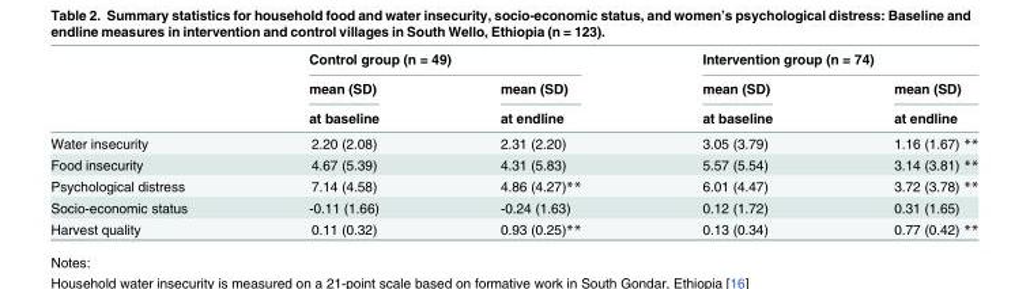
<table><thead><tr><td rowspan="3"></td><td colspan="2">Control group (n = 49)</td><td colspan="2">Intervention group (n = 74)</td></tr><tr><td rowspan="2">mean (SD) at baseline</td><td rowspan="2">mean (SD) at endline</td><td rowspan="2">mean (SD) at baseline</td><td rowspan="2">mean (SD) at endline</td></tr><tr></tr></thead><tbody><tr><td>Water insecurity</td><td>2.20 (2.08)</td><td>2.31 (2.20)</td><td>3.05 (3.79)</td><td>1.16 (1.67) **</td></tr><tr><td>Food insecurity</td><td>4.67 (5.39)</td><td>4.31 (5.83)</td><td>5.57 (5.54)</td><td>3.14 (3.81) **</td></tr><tr><td>Psychological distress</td><td>7.14 (4.58)</td><td>4.86 (4.27)**</td><td>6.01 (4.47)</td><td>3.72 (3.78) **</td></tr><tr><td>Socio-economic status</td><td>-0.11 (1.66)</td><td>-0.24 (1.63)</td><td>0.12 (1.72)</td><td>0.31 (1.65)</td></tr><tr><td>Harvest quality</td><td>0.11 (0.32)</td><td>0.93 (0.25)**</td><td>0.13 (0.34)</td><td>0.77 (0.42) **</td></tr></tbody></table>